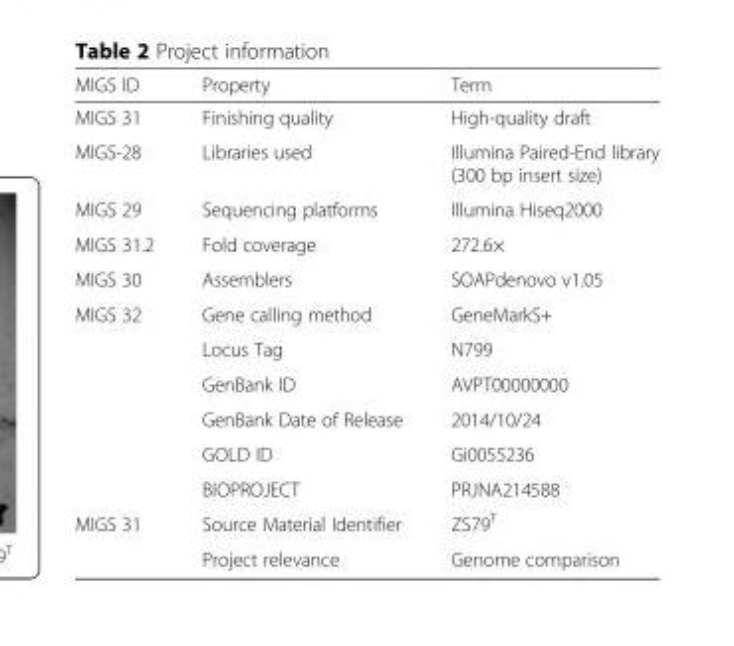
<table><thead><tr><td>MIGS ID</td><td>Property</td><td>Term</td></tr></thead><tbody><tr><td>MIGS 31</td><td>Finishing quality</td><td>High-quality draft</td></tr><tr><td>MIGS-28</td><td>Libraries used</td><td>Illumina Paired-End library (300 bp insert size)</td></tr><tr><td>MIGS 29</td><td>Sequencing platforms</td><td>Illumina Hiseq2000</td></tr><tr><td>MIGS 31.2</td><td>Fold coverage</td><td>272.6×</td></tr><tr><td>MIGS 30</td><td>Assemblers</td><td>SOAPdenovo v1.05</td></tr><tr><td rowspan="6">MIGS 32</td><td>Gene calling method</td><td>GeneMarkS+</td></tr><tr><td>Locus Tag</td><td>N799</td></tr><tr><td>GenBank ID</td><td>AVPT00000000</td></tr><tr><td>GenBank Date of Release</td><td>2014/10/24</td></tr><tr><td>GOLD ID</td><td>Gi0055236</td></tr><tr><td>BIOPROJECT</td><td>PRJNA214588</td></tr><tr><td rowspan="2">MIGS 31</td><td>Source Material Identifier</td><td>ZS79<sup>T</sup></td></tr><tr><td>Project relevance</td><td>Genome comparison</td></tr></tbody></table>